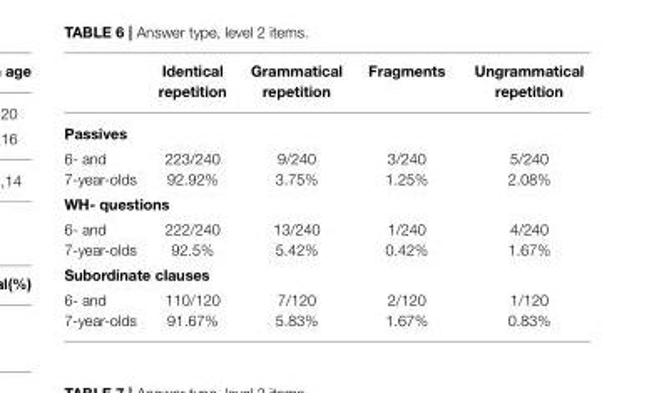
<table><thead><tr><td></td><td>Identical repetition</td><td>Grammatical repetition</td><td>Fragments</td><td>Ungrammatical repetition</td></tr></thead><tbody><tr><td colspan="5">Passives</td></tr><tr><td>6- and 7-year-olds</td><td>223/240 92.92%</td><td>9/240 3.75%</td><td>3/240 1.25%</td><td>5/240 2.08%</td></tr><tr><td colspan="5">WH- questions</td></tr><tr><td>6- and 7-year-olds</td><td>222/240 92.5%</td><td>13/240 5.42%</td><td>1/240 0.42%</td><td>4/240 1.67%</td></tr><tr><td colspan="5">Subordinate clauses</td></tr><tr><td>6- and 7-year-olds</td><td>110/120 91.67%</td><td>7/120 5.83%</td><td>2/120 1.67%</td><td>1/120 0.83%</td></tr></tbody></table>